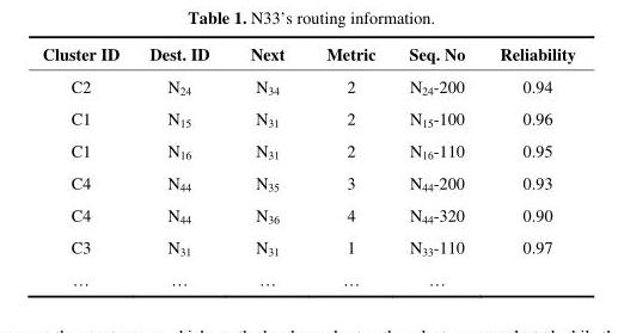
<table><thead><tr><td>Cluster ID</td><td>Dest. ID</td><td>Next</td><td>Metric</td><td>Seq. No</td><td>Reliability</td></tr></thead><tbody><tr><td>C2</td><td>N<sub>24</sub></td><td>N<sub>34</sub></td><td>2</td><td>N<sub>24</sub>-200</td><td>0.94</td></tr><tr><td>C1</td><td>N<sub>15</sub></td><td>N<sub>31</sub></td><td>2</td><td>N<sub>15</sub>-100</td><td>0.96</td></tr><tr><td>C1</td><td>N<sub>16</sub></td><td>N<sub>31</sub></td><td>2</td><td>N<sub>16</sub>-110</td><td>0.95</td></tr><tr><td>C4</td><td>N<sub>44</sub></td><td>N<sub>35</sub></td><td>3</td><td>N<sub>44</sub>-200</td><td>0.93</td></tr><tr><td>C4</td><td>N<sub>44</sub></td><td>N<sub>36</sub></td><td>4</td><td>N<sub>44</sub>-320</td><td>0.90</td></tr><tr><td>C3</td><td>N<sub>31</sub></td><td>N<sub>31</sub></td><td>1</td><td>N<sub>33</sub>-110</td><td>0.97</td></tr><tr><td>…</td><td>…</td><td>…</td><td>…</td><td>…</td><td></td></tr></tbody></table>